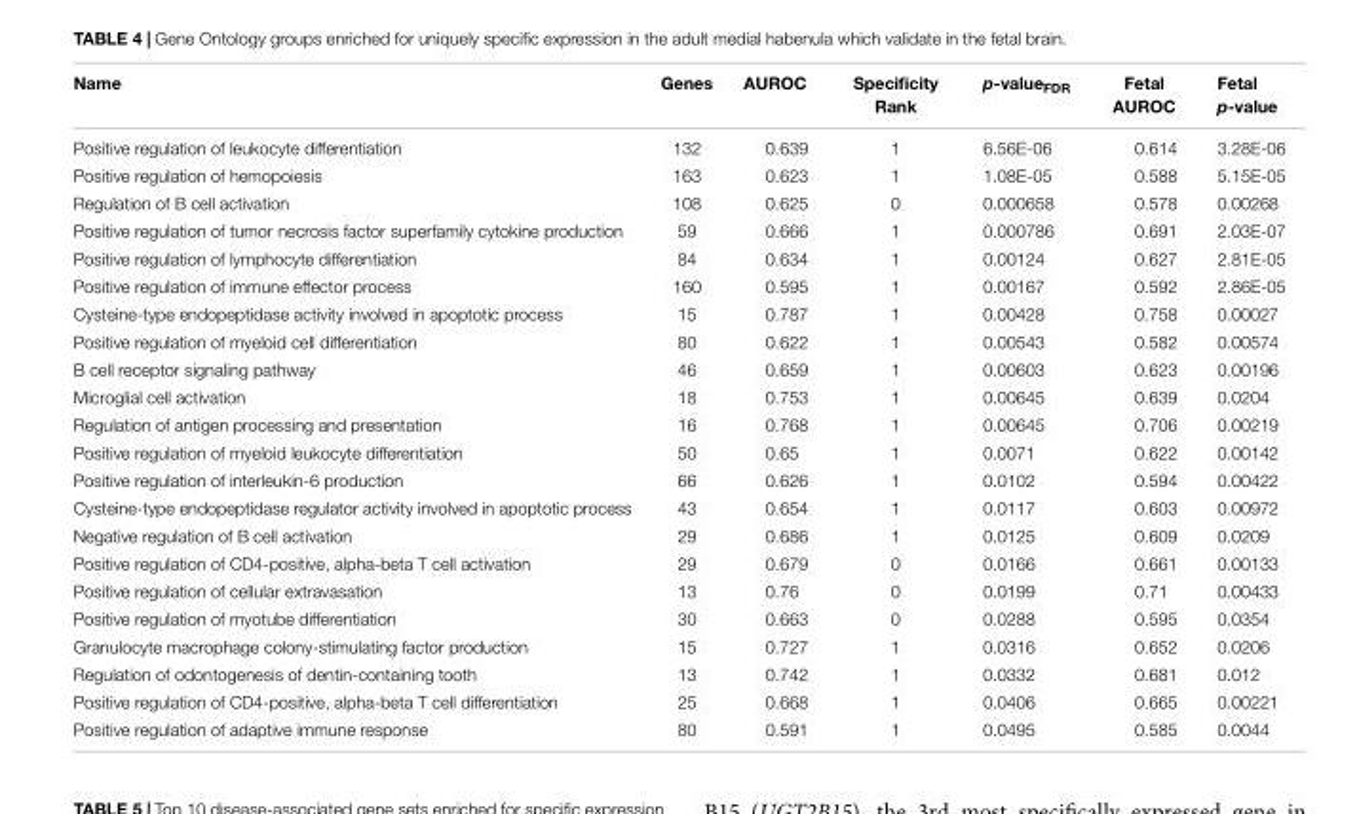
<table><thead><tr><td>Name</td><td>Genes</td><td>AUROC</td><td>Specificity Rank</td><td>p-value<sub>FDR</sub></td><td>Fetal AUROC</td><td>Fetal p-value</td></tr></thead><tbody><tr><td>Positive regulation of leukocyte differentiation</td><td>132</td><td>0.639</td><td>1</td><td>6.56E-06</td><td>0.614</td><td>3.28E-06</td></tr><tr><td>Positive regulation of hemopoiesis</td><td>163</td><td>0.623</td><td>1</td><td>1.08E-05</td><td>0.588</td><td>5.15E-05</td></tr><tr><td>Regulation of B cell activation</td><td>108</td><td>0.625</td><td>0</td><td>0.000658</td><td>0.578</td><td>0.00268</td></tr><tr><td>Positive regulation of tumor necrosis factor superfamily cytokine production</td><td>59</td><td>0.666</td><td>1</td><td>0.000786</td><td>0.691</td><td>2.03E-07</td></tr><tr><td>Positive regulation of lymphocyte differentiation</td><td>84</td><td>0.634</td><td>1</td><td>0.00124</td><td>0.627</td><td>2.81E-05</td></tr><tr><td>Positive regulation of immune effector process</td><td>160</td><td>0.595</td><td>1</td><td>0.00167</td><td>0.592</td><td>2.86E-05</td></tr><tr><td>Cysteine-type endopeptidase activity involved in apoptotic process</td><td>15</td><td>0.787</td><td>1</td><td>0.00428</td><td>0.758</td><td>0.00027</td></tr><tr><td>Positive regulation of myeloid cell differentiation</td><td>80</td><td>0.622</td><td>1</td><td>0.00543</td><td>0.582</td><td>0.00574</td></tr><tr><td>B cell receptor signaling pathway</td><td>46</td><td>0.659</td><td>1</td><td>0.00603</td><td>0.623</td><td>0.00196</td></tr><tr><td>Microglial cell activation</td><td>18</td><td>0.753</td><td>1</td><td>0.00645</td><td>0.639</td><td>0.0204</td></tr><tr><td>Regulation of antigen processing and presentation</td><td>16</td><td>0.768</td><td>1</td><td>0.00645</td><td>0.706</td><td>0.00219</td></tr><tr><td>Positive regulation of myeloid leukocyte differentiation</td><td>50</td><td>0.65</td><td>1</td><td>0.0071</td><td>0.622</td><td>0.00142</td></tr><tr><td>Positive regulation of interleukin-6 production</td><td>66</td><td>0.626</td><td>1</td><td>0.0102</td><td>0.594</td><td>0.00422</td></tr><tr><td>Cysteine-type endopeptidase regulator activity involved in apoptotic process</td><td>43</td><td>0.654</td><td>1</td><td>0.0117</td><td>0.603</td><td>0.00972</td></tr><tr><td>Negative regulation of B cell activation</td><td>29</td><td>0.686</td><td>1</td><td>0.0125</td><td>0.609</td><td>0.0209</td></tr><tr><td>Positive regulation of CD4-positive, alpha-beta T cell activation</td><td>29</td><td>0.679</td><td>0</td><td>0.0166</td><td>0.661</td><td>0.00133</td></tr><tr><td>Positive regulation of cellular extravasation</td><td>13</td><td>0.76</td><td>0</td><td>0.0199</td><td>0.71</td><td>0.00433</td></tr><tr><td>Positive regulation of myotube differentiation</td><td>30</td><td>0.663</td><td>0</td><td>0.0288</td><td>0.595</td><td>0.0354</td></tr><tr><td>Granulocyte macrophage colony-stimulating factor production</td><td>15</td><td>0.727</td><td>1</td><td>0.0316</td><td>0.652</td><td>0.0206</td></tr><tr><td>Regulation of odontogenesis of dentin-containing tooth</td><td>13</td><td>0.742</td><td>1</td><td>0.0332</td><td>0.681</td><td>0.012</td></tr><tr><td>Positive regulation of CD4-positive, alpha-beta T cell differentiation</td><td>25</td><td>0.668</td><td>1</td><td>0.0406</td><td>0.665</td><td>0.00221</td></tr><tr><td>Positive regulation of adaptive immune response</td><td>80</td><td>0.591</td><td>1</td><td>0.0495</td><td>0.585</td><td>0.0044</td></tr></tbody></table>